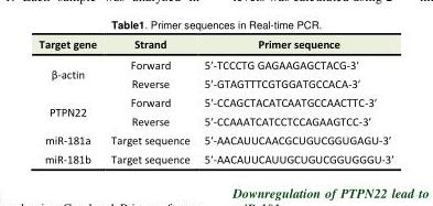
<table><tbody><tr><td>Target gene</td><td>Strand</td><td>Primer sequence</td></tr><tr><td rowspan="2">β-actin</td><td>Forward</td><td>5ʹ-TCCCTG GAGAAGAGCTACG-3ʹ</td></tr><tr><td>Reverse</td><td>5ʹ-GTAGTTTCGTGGATGCCACA-3ʹ</td></tr><tr><td rowspan="2">PTPN22</td><td>Forward</td><td>5ʹ-CCAGCTACATCAATGCCAACTTC-3ʹ</td></tr><tr><td>Reverse</td><td>5ʹ-CCAAATCATCCTCCAGAAGTCC-3ʹ</td></tr><tr><td>miR-181a</td><td>Target sequence</td><td>5ʹ-AACAUUCAACGCUGUCGGUGAGU-3ʹ</td></tr><tr><td>miR-181b</td><td>Target sequence</td><td>5ʹ-AACAUUCAUUGCUGUCGGUGGGU-3ʹ</td></tr></tbody></table>